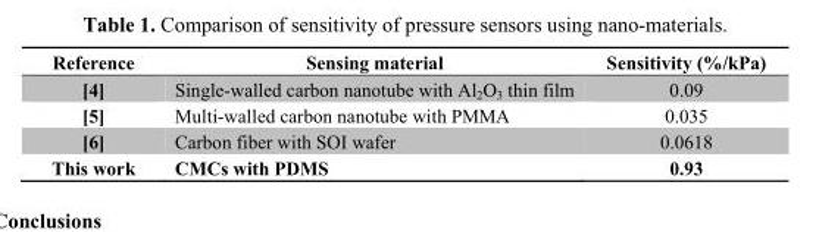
<table><thead><tr><td>Reference</td><td>Sensing material</td><td>Sensitivity (%/kPa)</td></tr></thead><tbody><tr><td>[4]</td><td>Single-walled carbon nanotube with Al<sub>2</sub>O<sub>3</sub> thin film</td><td>0.09</td></tr><tr><td>[5]</td><td>Multi-walled carbon nanotube with PMMA</td><td>0.035</td></tr><tr><td>[6]</td><td>Carbon fiber with SOI wafer</td><td>0.0618</td></tr><tr><td>This work</td><td>CMCs with PDMS</td><td>0.93</td></tr></tbody></table>